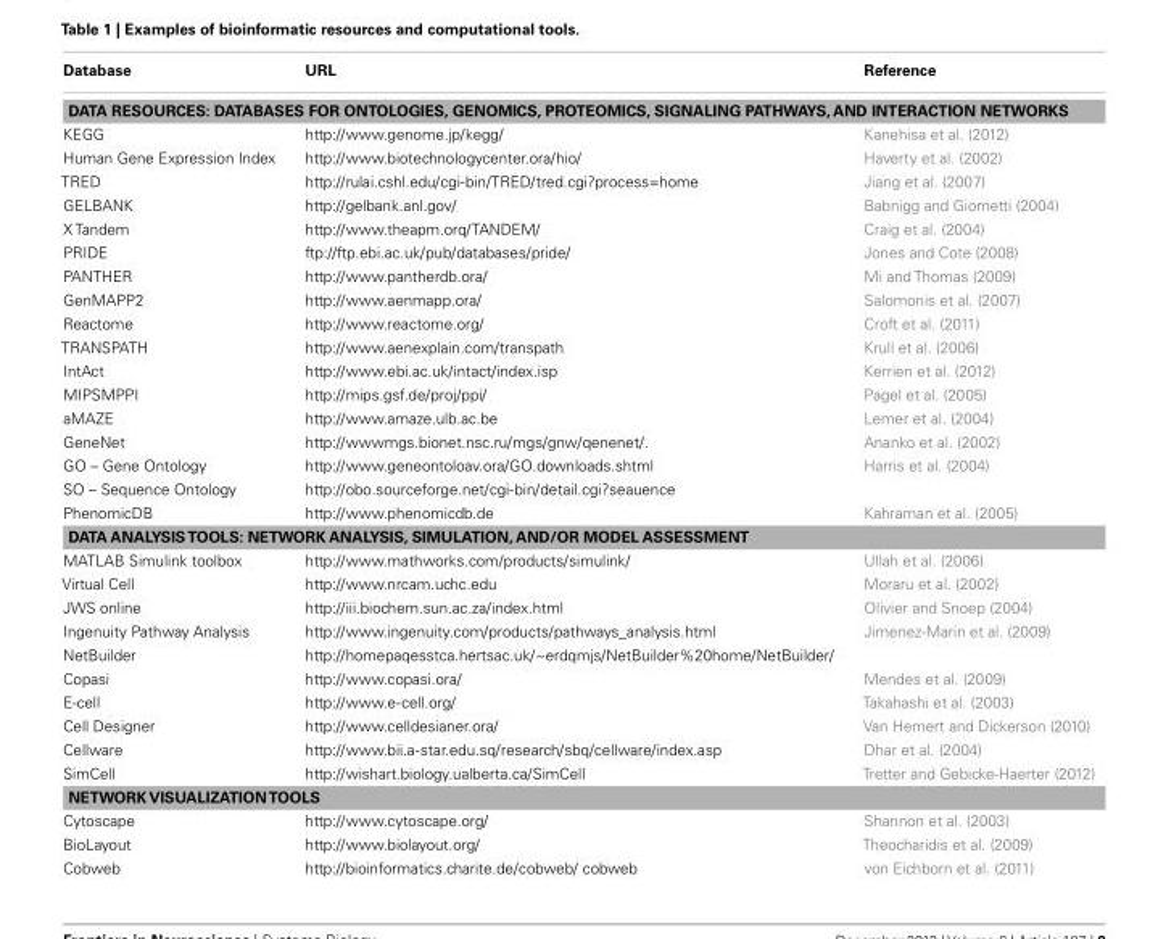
<table><thead><tr><td>Database</td><td>URL</td><td>Reference</td></tr></thead><tbody><tr><td colspan="3">DATA RESOURCES: DATABASES FOR ONTOLOGIES, GENOMICS, PROTEOMICS, SIGNALING PATHWAYS, AND INTERACTION NETWORKS</td></tr><tr><td>KEGG</td><td>http://www.genome.jp/kegg/</td><td>Kanehisa et al. (2012)</td></tr><tr><td>Human Gene Expression Index</td><td>http://www.biotechnologycenter.ora/hio/</td><td>Haverty et al. (2002)</td></tr><tr><td>TRED</td><td>http://rulai.cshl.edu/cgi-bin/TRED/tred.cgi?process=home</td><td>Jiang et al. (2007)</td></tr><tr><td>GELBANK</td><td>http://gelbank.anl.gov/</td><td>Babnigg and Giometti (2004)</td></tr><tr><td>X Tandem</td><td>http://www.theapm.orq/TANDEM/</td><td>Craig et al. (2004)</td></tr><tr><td>PRIDE</td><td>ftp://ftp.ebi.ac.uk/pub/databases/pride/</td><td>Jones and Cote (2008)</td></tr><tr><td>PANTHER</td><td>http://www.pantherdb.ora/</td><td>Mi and Thomas (2009)</td></tr><tr><td>GenMAPP2</td><td>http://www.aenmapp.ora/</td><td>Salomonis et al. (2007)</td></tr><tr><td>Reactome</td><td>http://www.reactome.org/</td><td>Croft et al. (2011)</td></tr><tr><td>TRANSPATH</td><td>http://www.aenexplain.com/transpath</td><td>Krull et al. (2006)</td></tr><tr><td>IntAct</td><td>http://www.ebi.ac.uk/intact/index.isp</td><td>Kerrien et al. (2012)</td></tr><tr><td>MIPSMPPI</td><td>http://mips.gsf.de/proj/ppi/</td><td>Pagel et al. (2005)</td></tr><tr><td>aMAZE</td><td>http://www.amaze.ulb.ac.be</td><td>Lemer et al. (2004)</td></tr><tr><td>GeneNet</td><td>http://wwwmgs.bionet.nsc.ru/mgs/gnw/qenenet/.</td><td>Ananko et al. (2002)</td></tr><tr><td>GO – Gene Ontology</td><td>http://www.geneontoloav.ora/GO.downloads.shtml</td><td>Harris et al. (2004)</td></tr><tr><td>SO – Sequence Ontology</td><td>http://obo.sourceforge.net/cgi-bin/detail.cgi?seauence</td><td></td></tr><tr><td>PhenomicDB</td><td>http://www.phenomicdb.de</td><td>Kahraman et al. (2005)</td></tr><tr><td colspan="3">DATA ANALYSISTOOLS: NETWORK ANALYSIS, SIMULATION, AND/OR MODEL ASSESSMENT</td></tr><tr><td>MATLAB Simulink toolbox</td><td>http://www.mathworks.com/products/simulink/</td><td>Ullah et al. (2006)</td></tr><tr><td>Virtual Cell</td><td>http://www.nrcam.uchc.edu</td><td>Moraru et al. (2002)</td></tr><tr><td>JWS online</td><td>http://iii.biochem.sun.ac.za/index.html</td><td>Olivier and Snoep (2004)</td></tr><tr><td>Ingenuity Pathway Analysis</td><td>http://www.ingenuity.com/products/pathways_analysis.html</td><td>Jimenez-Marin et al. (2009)</td></tr><tr><td>NetBuilder</td><td>http://homepaqesstca.hertsac.uk/~erdqmjs/NetBuilder%20home/NetBuilder/</td><td></td></tr><tr><td>Copasi</td><td>http://www.copasi.ora/</td><td>Mendes et al. (2009)</td></tr><tr><td>E-cell</td><td>http://www.e-cell.org/</td><td>Takahashi et al. (2003)</td></tr><tr><td>Cell Designer</td><td>http://www.celldesianer.ora/</td><td>Van Hemert and Dickerson (2010)</td></tr><tr><td>Cellware</td><td>http://www.bii.a-star.edu.sq/research/sbq/cellware/index.asp</td><td>Dhar et al. (2004)</td></tr><tr><td>SimCell</td><td>http://wishart.biology.ualberta.ca/SimCell</td><td>Tretter and Gebicke-Haerter (2012)</td></tr><tr><td colspan="3">NETWORK VISUALIZATIONTOOLS</td></tr><tr><td>Cytoscape</td><td>http://www.cytoscape.org/</td><td>Shannon et al. (2003)</td></tr><tr><td>BioLayout</td><td>http://www.biolayout.org/</td><td>Theocharidis et al. (2009)</td></tr><tr><td>Cobweb</td><td>http://bioinformatics.charite.de/cobweb/ cobweb</td><td>von Eichborn et al. (2011)</td></tr></tbody></table>